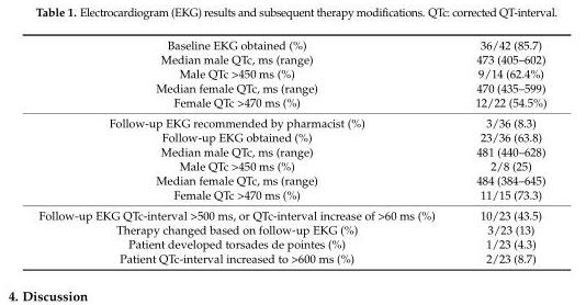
<table><tbody><tr><td>Baseline EKG obtained (%)</td><td>36/42 (85.7)</td></tr><tr><td>Median male QTc, ms (range)</td><td>473 (405–602)</td></tr><tr><td>Male QTc &gt;450 ms (%)</td><td>9/14 (62.4%)</td></tr><tr><td>Median female QTc, ms (range)</td><td>470 (435–599)</td></tr><tr><td>Female QTc &gt;470 ms (%)</td><td>12/22 (54.5%)</td></tr><tr><td>Follow-up EKG recommended by pharmacist (%)</td><td>3/36 (8.3)</td></tr><tr><td>Follow-up EKG obtained (%)</td><td>23/36 (63.8)</td></tr><tr><td>Median male QTc, ms (range)</td><td>481 (440–628)</td></tr><tr><td>Male QTc &gt;450 ms (%)</td><td>2/8 (25)</td></tr><tr><td>Median female QTc, ms (range)</td><td>484 (384–645)</td></tr><tr><td>Female QTc &gt;470 ms (%)</td><td>11/15 (73.3)</td></tr><tr><td>Follow-up EKG QTc-interval &gt;500 ms, or QTc-interval increase of &gt;60 ms (%)</td><td>10/23 (43.5)</td></tr><tr><td>Therapy changed based on follow-up EKG (%)</td><td>3/23 (13)</td></tr><tr><td>Patient developed torsades de pointes (%)</td><td>1/23 (4.3)</td></tr><tr><td>Patient QTc-interval increased to &gt;600 ms (%)</td><td>2/23 (8.7)</td></tr></tbody></table>